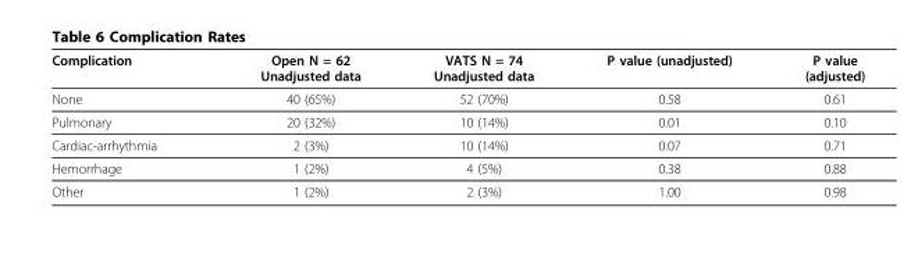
<table><thead><tr><td>Complication</td><td>Open N = 62 Unadjusted data</td><td>VATS N = 74 Unadjusted data</td><td>P value (unadjusted)</td><td>P value (adjusted)</td></tr></thead><tbody><tr><td>None</td><td>40 (65%)</td><td>52 (70%)</td><td>0.58</td><td>0.61</td></tr><tr><td>Pulmonary</td><td>20 (32%)</td><td>10 (14%)</td><td>0.01</td><td>0.10</td></tr><tr><td>Cardiac-arrhythmia</td><td>2 (3%)</td><td>10 (14%)</td><td>0.07</td><td>0.71</td></tr><tr><td>Hemorrhage</td><td>1 (2%)</td><td>4 (5%)</td><td>0.38</td><td>0.88</td></tr><tr><td>Other</td><td>1 (2%)</td><td>2 (3%)</td><td>1.00</td><td>0.98</td></tr></tbody></table>